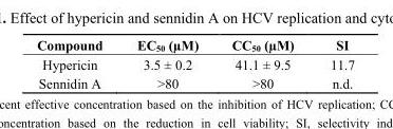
<table><thead><tr><td>Compound</td><td>EC<sub>50</sub> (µM)</td><td>CC<sub>50</sub> (µM)</td><td>SI</td></tr></thead><tbody><tr><td>Hypericin</td><td>3.5 ± 0.2</td><td>41.1 ± 9.5</td><td>11.7</td></tr><tr><td>Sennidin A</td><td>&gt;80</td><td>&gt;80</td><td>n.d.</td></tr></tbody></table>